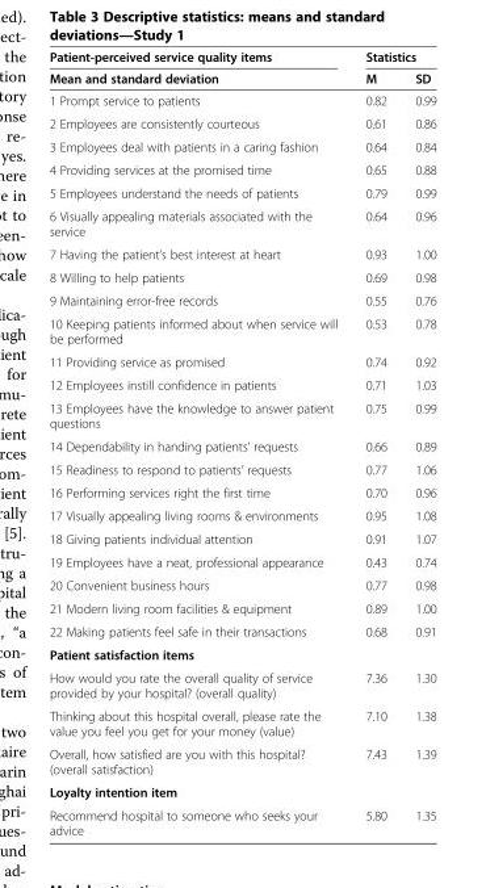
<table><thead><tr><td rowspan="2">Patient-perceived service quality items Mean and standard deviation</td><td colspan="2">Statistics</td></tr><tr><td>M</td><td>SD</td></tr></thead><tbody><tr><td>1 Prompt service to patients</td><td>0.82</td><td>0.99</td></tr><tr><td>2 Employees are consistently courteous</td><td>0.61</td><td>0.86</td></tr><tr><td>3 Employees deal with patients in a caring fashion</td><td>0.64</td><td>0.84</td></tr><tr><td>4 Providing services at the promised time</td><td>0.65</td><td>0.88</td></tr><tr><td>5 Employees understand the needs of patients</td><td>0.79</td><td>0.99</td></tr><tr><td>6 Visually appealing materials associated with the service</td><td>0.64</td><td>0.96</td></tr><tr><td>7 Having the patient’s best interest at heart</td><td>0.93</td><td>1.00</td></tr><tr><td>8 Willing to help patients</td><td>0.69</td><td>0.98</td></tr><tr><td>9 Maintaining error-free records</td><td>0.55</td><td>0.76</td></tr><tr><td>10 Keeping patients informed about when service will be performed</td><td>0.53</td><td>0.78</td></tr><tr><td>11 Providing service as promised</td><td>0.74</td><td>0.92</td></tr><tr><td>12 Employees instill confidence in patients</td><td>0.71</td><td>1.03</td></tr><tr><td>13 Employees have the knowledge to answer patient questions</td><td>0.75</td><td>0.99</td></tr><tr><td>14 Dependability in handing patients’ requests</td><td>0.66</td><td>0.89</td></tr><tr><td>15 Readiness to respond to patients’ requests</td><td>0.77</td><td>1.06</td></tr><tr><td>16 Performing services right the first time</td><td>0.70</td><td>0.96</td></tr><tr><td>17 Visually appealing living rooms &amp; environments</td><td>0.95</td><td>1.08</td></tr><tr><td>18 Giving patients individual attention</td><td>0.91</td><td>1.07</td></tr><tr><td>19 Employees have a neat, professional appearance</td><td>0.43</td><td>0.74</td></tr><tr><td>20 Convenient business hours</td><td>0.77</td><td>0.98</td></tr><tr><td>21 Modern living room facilities &amp; equipment</td><td>0.89</td><td>1.00</td></tr><tr><td>22 Making patients feel safe in their transactions</td><td>0.68</td><td>0.91</td></tr><tr><td colspan="3">Patient satisfaction items</td></tr><tr><td>How would you rate the overall quality of service provided by your hospital? (overall quality)</td><td>7.36</td><td>1.30</td></tr><tr><td>Thinking about this hospital overall, please rate the value you feel you get for your money (value)</td><td>7.10</td><td>1.38</td></tr><tr><td>Overall, how satisfied are you with this hospital? (overall satisfaction)</td><td>7.43</td><td>1.39</td></tr><tr><td colspan="3">Loyalty intention item</td></tr><tr><td>Recommend hospital to someone who seeks your advice</td><td>5.80</td><td>1.35</td></tr></tbody></table>